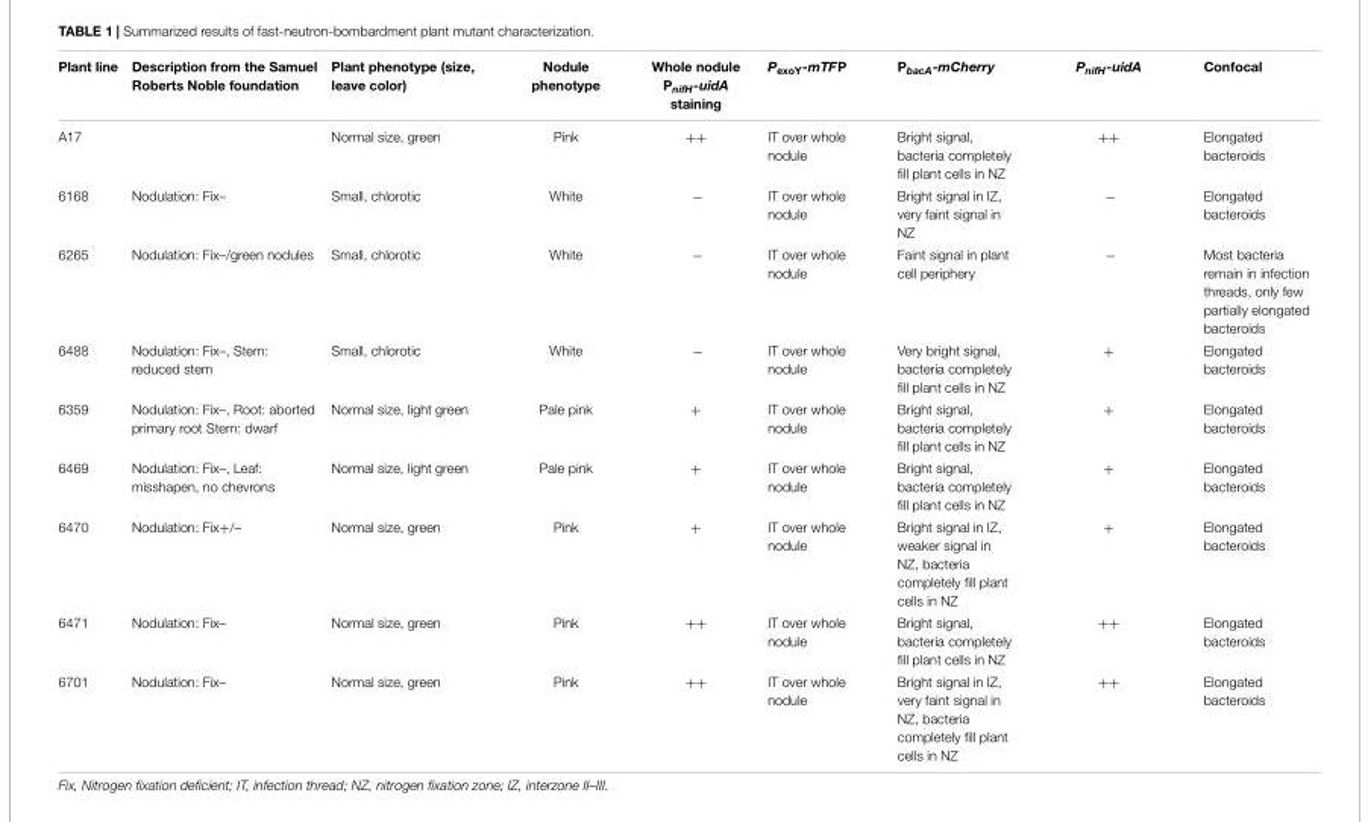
<table><thead><tr><td>Plant line</td><td>Description from the Samuel Roberts Noble foundation</td><td>Plant phenotype (size, leave color)</td><td>Nodule phenotype</td><td>Whole nodule P<sub>nifH</sub>-uidA staining</td><td>P<sub>exoY</sub>-mTFP</td><td>P<sub>bacA</sub>-mCherry</td><td>P<sub>nifH</sub>-uidA</td><td>Confocal</td></tr></thead><tbody><tr><td>A17</td><td></td><td>Normal size, green</td><td>Pink</td><td>++</td><td>IT over whole nodule</td><td>Bright signal, bacteria completely fill plant cells in NZ</td><td>++</td><td>Elongated bacteroids</td></tr><tr><td>6168</td><td>Nodulation: Fix–</td><td>Small, chlorotic</td><td>White</td><td>−</td><td>IT over whole nodule</td><td>Bright signal in IZ, very faint signal in NZ</td><td>−</td><td>Elongated bacteroids</td></tr><tr><td>6265</td><td>Nodulation: Fix–/green nodules</td><td>Small, chlorotic</td><td>White</td><td>−</td><td>IT over whole nodule</td><td>Faint signal in plant cell periphery</td><td>−</td><td>Most bacteria remain in infection threads, only few partially elongated bacteroids</td></tr><tr><td>6488</td><td>Nodulation: Fix–, Stem: reduced stem</td><td>Small, chlorotic</td><td>White</td><td>−</td><td>IT over whole nodule</td><td>Very bright signal, bacteria completely fill plant cells in NZ</td><td>+</td><td>Elongated bacteroids</td></tr><tr><td>6359</td><td>Nodulation: Fix–, Root: aborted primary root Stem: dwarf</td><td>Normal size, light green</td><td>Pale pink</td><td>+</td><td>IT over whole nodule</td><td>Bright signal, bacteria completely fill plant cells in NZ</td><td>+</td><td>Elongated bacteroids</td></tr><tr><td>6469</td><td>Nodulation: Fix–, Leaf: misshapen, no chevrons</td><td>Normal size, light green</td><td>Pale pink</td><td>+</td><td>IT over whole nodule</td><td>Bright signal, bacteria completely fill plant cells in NZ</td><td>+</td><td>Elongated bacteroids</td></tr><tr><td>6470</td><td>Nodulation: Fix+/–</td><td>Normal size, green</td><td>Pink</td><td>+</td><td>IT over whole nodule</td><td>Bright signal in IZ, weaker signal in NZ, bacteria completely fill plant cells in NZ</td><td>+</td><td>Elongated bacteroids</td></tr><tr><td>6471</td><td>Nodulation: Fix–</td><td>Normal size, green</td><td>Pink</td><td>++</td><td>IT over whole nodule</td><td>Bright signal, bacteria completely fill plant cells in NZ</td><td>++</td><td>Elongated bacteroids</td></tr><tr><td>6701</td><td>Nodulation: Fix–</td><td>Normal size, green</td><td>Pink</td><td>++</td><td>IT over whole nodule</td><td>Bright signal in IZ, very faint signal in NZ, bacteria completely fill plant cells in NZ</td><td>++</td><td>Elongated bacteroids</td></tr></tbody></table>